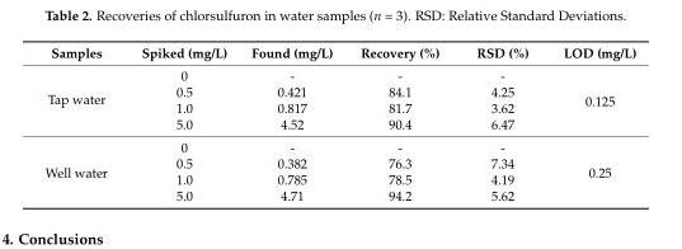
<table><thead><tr><td>Samples</td><td>Spiked (mg/L)</td><td>Found (mg/L)</td><td>Recovery (%)</td><td>RSD (%)</td><td>LOD (mg/L)</td></tr></thead><tbody><tr><td rowspan="4">Tap water</td><td>0</td><td>-</td><td>-</td><td>-</td><td rowspan="4">0.125</td></tr><tr><td>0.5</td><td>0.421</td><td>84.1</td><td>4.25</td></tr><tr><td>1.0</td><td>0.817</td><td>81.7</td><td>3.62</td></tr><tr><td>5.0</td><td>4.52</td><td>90.4</td><td>6.47</td></tr><tr><td rowspan="4">Well water</td><td>0</td><td>-</td><td>-</td><td>-</td><td rowspan="4">0.25</td></tr><tr><td>0.5</td><td>0.382</td><td>76.3</td><td>7.34</td></tr><tr><td>1.0</td><td>0.785</td><td>78.5</td><td>4.19</td></tr><tr><td>5.0</td><td>4.71</td><td>94.2</td><td>5.62</td></tr></tbody></table>